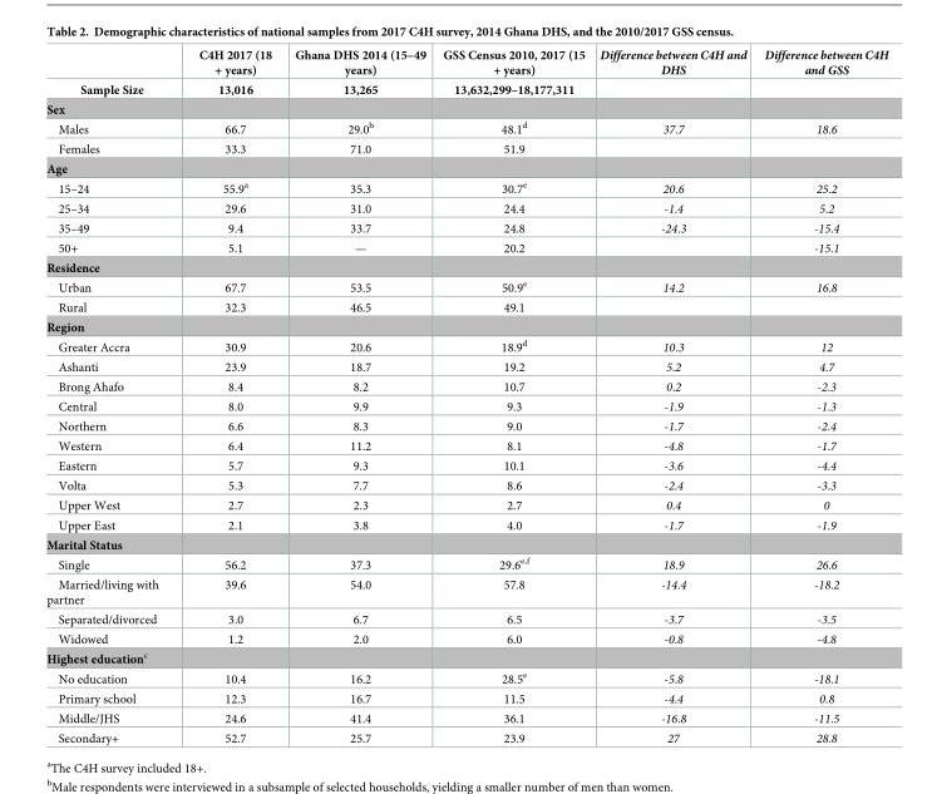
<table><thead><tr><td rowspan="2">Sample Size</td><td rowspan="2">C4H 2017 (18 + years) 13,016</td><td rowspan="2">Ghana DHS 2014 (15–49 years) 13,265</td><td rowspan="2">GSS Census 2010, 2017 (15 + years) 13,632,299–18,177,311</td><td rowspan="2">Difference between C4H and DHS</td><td rowspan="2">Difference between C4H and GSS</td></tr><tr></tr></thead><tbody><tr><td colspan="6">Sex</td></tr><tr><td>Males</td><td>66.7</td><td>29.0<sup>b</sup></td><td>48.1<sup>d</sup></td><td>37.7</td><td>18.6</td></tr><tr><td>Females</td><td>33.3</td><td>71.0</td><td>51.9</td><td></td><td></td></tr><tr><td colspan="6">Age</td></tr><tr><td>15–24</td><td>55.9<sup>a</sup></td><td>35.3</td><td>30.7<sup>e</sup></td><td>20.6</td><td>25.2</td></tr><tr><td>25–34</td><td>29.6</td><td>31.0</td><td>24.4</td><td>-1.4</td><td>5.2</td></tr><tr><td>35–49</td><td>9.4</td><td>33.7</td><td>24.8</td><td>-24.3</td><td>-15.4</td></tr><tr><td>50+</td><td>5.1</td><td>—</td><td>20.2</td><td></td><td>-15.1</td></tr><tr><td colspan="6">Residence</td></tr><tr><td>Urban</td><td>67.7</td><td>53.5</td><td>50.9<sup>e</sup></td><td>14.2</td><td>16.8</td></tr><tr><td>Rural</td><td>32.3</td><td>46.5</td><td>49.1</td><td></td><td></td></tr><tr><td colspan="6">Region</td></tr><tr><td>Greater Accra</td><td>30.9</td><td>20.6</td><td>18.9<sup>d</sup></td><td>10.3</td><td>12</td></tr><tr><td>Ashanti</td><td>23.9</td><td>18.7</td><td>19.2</td><td>5.2</td><td>4.7</td></tr><tr><td>Brong Ahafo</td><td>8.4</td><td>8.2</td><td>10.7</td><td>0.2</td><td>-2.3</td></tr><tr><td>Central</td><td>8.0</td><td>9.9</td><td>9.3</td><td>-1.9</td><td>-1.3</td></tr><tr><td>Northern</td><td>6.6</td><td>8.3</td><td>9.0</td><td>-1.7</td><td>-2.4</td></tr><tr><td>Western</td><td>6.4</td><td>11.2</td><td>8.1</td><td>-4.8</td><td>-1.7</td></tr><tr><td>Eastern</td><td>5.7</td><td>9.3</td><td>10.1</td><td>-3.6</td><td>-4.4</td></tr><tr><td>Volta</td><td>5.3</td><td>7.7</td><td>8.6</td><td>-2.4</td><td>-3.3</td></tr><tr><td>Upper West</td><td>2.7</td><td>2.3</td><td>2.7</td><td>0.4</td><td>0</td></tr><tr><td>Upper East</td><td>2.1</td><td>3.8</td><td>4.0</td><td>-1.7</td><td>-1.9</td></tr><tr><td colspan="6">Marital Status</td></tr><tr><td>Single</td><td>56.2</td><td>37.3</td><td>29.6<sup>e,f</sup></td><td>18.9</td><td>26.6</td></tr><tr><td>Married/living with partner</td><td>39.6</td><td>54.0</td><td>57.8</td><td>-14.4</td><td>-18.2</td></tr><tr><td>Separated/divorced</td><td>3.0</td><td>6.7</td><td>6.5</td><td>-3.7</td><td>-3.5</td></tr><tr><td>Widowed</td><td>1.2</td><td>2.0</td><td>6.0</td><td>-0.8</td><td>-4.8</td></tr><tr><td colspan="6">Highest education<sup>c</sup></td></tr><tr><td>No education</td><td>10.4</td><td>16.2</td><td>28.5<sup>e</sup></td><td>-5.8</td><td>-18.1</td></tr><tr><td>Primary school</td><td>12.3</td><td>16.7</td><td>11.5</td><td>-4.4</td><td>0.8</td></tr><tr><td>Middle/JHS</td><td>24.6</td><td>41.4</td><td>36.1</td><td>-16.8</td><td>-11.5</td></tr><tr><td>Secondary+</td><td>52.7</td><td>25.7</td><td>23.9</td><td>27</td><td>28.8</td></tr></tbody></table>